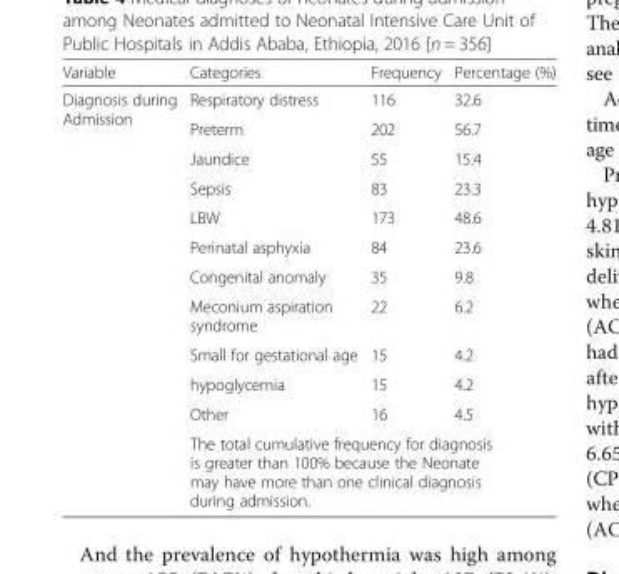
<table><thead><tr><td>Variable</td><td>Categories</td><td>Frequency</td><td>Percentage (%)</td></tr></thead><tbody><tr><td rowspan="12">Diagnosis during Admission</td><td>Respiratory distress</td><td>116</td><td>32.6</td></tr><tr><td>Preterm</td><td>202</td><td>56.7</td></tr><tr><td>Jaundice</td><td>55</td><td>15.4</td></tr><tr><td>Sepsis</td><td>83</td><td>23.3</td></tr><tr><td>LBW</td><td>173</td><td>48.6</td></tr><tr><td>Perinatal asphyxia</td><td>84</td><td>23.6</td></tr><tr><td>Congenital anomaly</td><td>35</td><td>9.8</td></tr><tr><td>Meconium aspiration syndrome</td><td>22</td><td>6.2</td></tr><tr><td>Small for gestational age</td><td>15</td><td>4.2</td></tr><tr><td>hypoglycemia</td><td>15</td><td>4.2</td></tr><tr><td>Other</td><td>16</td><td>4.5</td></tr><tr><td colspan="3">The total cumulative frequency for diagnosis is greater than 100% because the Neonate may have more than one clinical diagnosis during admission.</td></tr></tbody></table>